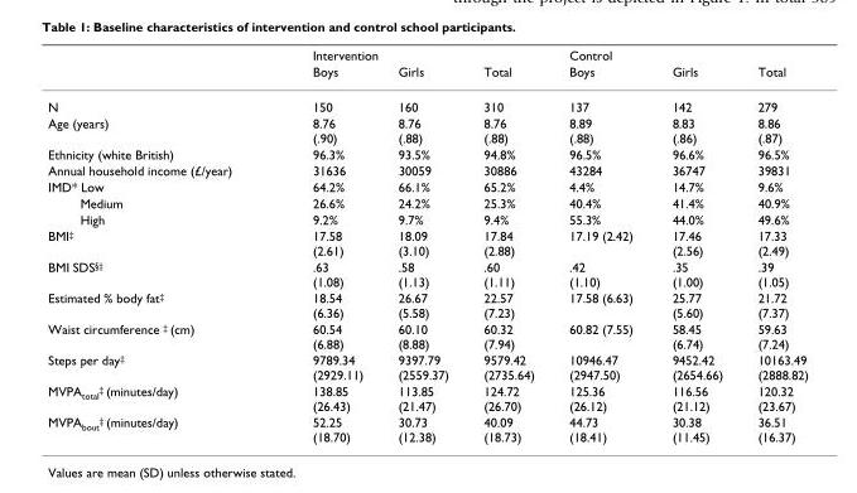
<table><thead><tr><td rowspan="2"></td><td colspan="3">Intervention</td><td colspan="3">Control</td></tr><tr><td>Boys</td><td>Girls</td><td>Total</td><td>Boys</td><td>Girls</td><td>Total</td></tr></thead><tbody><tr><td>N</td><td>150</td><td>160</td><td>310</td><td>137</td><td>142</td><td>279</td></tr><tr><td>Age (years)</td><td>8.76 (.90)</td><td>8.76 (.88)</td><td>8.76 (.88)</td><td>8.89 (.88)</td><td>8.83 (.86)</td><td>8.86 (.87)</td></tr><tr><td>Ethnicity (white British)</td><td>96.3%</td><td>93.5%</td><td>94.8%</td><td>96.5%</td><td>96.6%</td><td>96.5%</td></tr><tr><td>Annual household income (£/year)</td><td>31636</td><td>30059</td><td>30886</td><td>43284</td><td>36747</td><td>39831</td></tr><tr><td>IMD* Low</td><td>64.2%</td><td>66.1%</td><td>65.2%</td><td>4.4%</td><td>14.7%</td><td>9.6%</td></tr><tr><td>Medium</td><td>26.6%</td><td>24.2%</td><td>25.3%</td><td>40.4%</td><td>41.4%</td><td>40.9%</td></tr><tr><td>High</td><td>9.2%</td><td>9.7%</td><td>9.4%</td><td>55.3%</td><td>44.0%</td><td>49.6%</td></tr><tr><td>BMI<sup>‡</sup></td><td>17.58 (2.61)</td><td>18.09 (3.10)</td><td>17.84 (2.88)</td><td>17.19 (2.42)</td><td>17.46 (2.56)</td><td>17.33 (2.49)</td></tr><tr><td>BMI SDS<sup>§‡</sup></td><td>.63 (1.08)</td><td>.58 (1.13)</td><td>.60 (1.11)</td><td>.42 (1.10)</td><td>.35 (1.00)</td><td>.39 (1.05)</td></tr><tr><td>Estimated % body fat<sup>‡</sup></td><td>18.54 (6.36)</td><td>26.67 (5.58)</td><td>22.57 (7.23)</td><td>17.58 (6.63)</td><td>25.77 (5.60)</td><td>21.72 (7.37)</td></tr><tr><td>Waist circumference <sup>‡</sup> (cm)</td><td>60.54 (6.88)</td><td>60.10 (8.88)</td><td>60.32 (7.94)</td><td>60.82 (7.55)</td><td>58.45 (6.74)</td><td>59.63 (7.24)</td></tr><tr><td>Steps per day<sup>‡</sup></td><td>9789.34 (2929.11)</td><td>9397.79 (2559.37)</td><td>9579.42 (2735.64)</td><td>10946.47 (2947.50)</td><td>9452.42 (2654.66)</td><td>10163.49 (2888.82)</td></tr><tr><td>MVPA<sub>total</sub><sup>‡</sup> (minutes/day)</td><td>138.85 (26.43)</td><td>113.85 (21.47)</td><td>124.72 (26.70)</td><td>125.36 (26.12)</td><td>116.56 (21.12)</td><td>120.32 (23.67)</td></tr><tr><td>MVPA<sub>bout</sub><sup>‡</sup> (minutes/day)</td><td>52.25 (18.70)</td><td>30.73 (12.38)</td><td>40.09 (18.73)</td><td>44.73 (18.41)</td><td>30.38 (11.45)</td><td>36.51 (16.37)</td></tr></tbody></table>